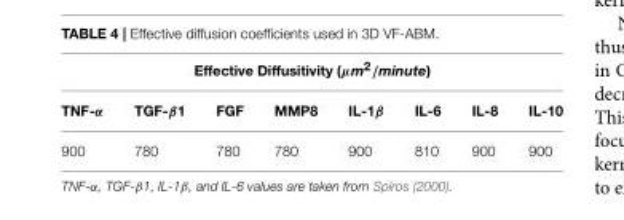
<table><thead><tr><td colspan="8">Effective Diffusitivity (µm<sup>2</sup>/minute)</td></tr><tr><td>TNF-α</td><td>TGF-β1</td><td>FGF</td><td>MMP8</td><td>IL-1β</td><td>IL-6</td><td>IL-8</td><td>IL-10</td></tr></thead><tbody><tr><td>900</td><td>780</td><td>780</td><td>780</td><td>900</td><td>810</td><td>900</td><td>900</td></tr></tbody></table>